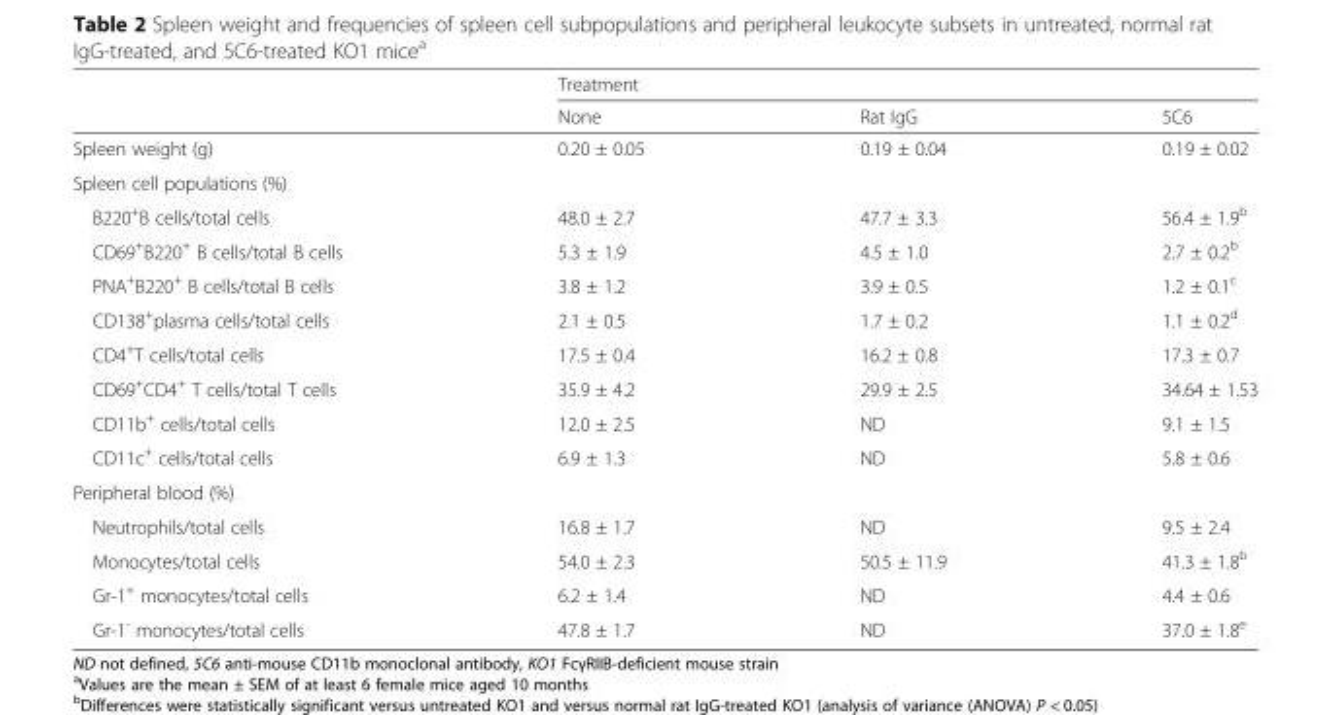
<table><thead><tr><td rowspan="2"></td><td colspan="3">Treatment</td></tr><tr><td>None</td><td>Rat IgG</td><td>5C6</td></tr></thead><tbody><tr><td>Spleen weight (g)</td><td>0.20 ± 0.05</td><td>0.19 ± 0.04</td><td>0.19 ± 0.02</td></tr><tr><td colspan="4">Spleen cell populations (%)</td></tr><tr><td>B220<sup>+</sup>B cells/total cells</td><td>48.0 ± 2.7</td><td>47.7 ± 3.3</td><td>56.4 ± 1.9<sup>b</sup></td></tr><tr><td>CD69<sup>+</sup>B220<sup>+</sup> B cells/total B cells</td><td>5.3 ± 1.9</td><td>4.5 ± 1.0</td><td>2.7 ± 0.2<sup>b</sup></td></tr><tr><td>PNA<sup>+</sup>B220<sup>+</sup> B cells/total B cells</td><td>3.8 ± 1.2</td><td>3.9 ± 0.5</td><td>1.2 ± 0.1<sup>c</sup></td></tr><tr><td>CD138<sup>+</sup>plasma cells/total cells</td><td>2.1 ± 0.5</td><td>1.7 ± 0.2</td><td>1.1 ± 0.2<sup>d</sup></td></tr><tr><td>CD4<sup>+</sup>T cells/total cells</td><td>17.5 ± 0.4</td><td>16.2 ± 0.8</td><td>17.3 ± 0.7</td></tr><tr><td>CD69<sup>+</sup>CD4<sup>+</sup> T cells/total T cells</td><td>35.9 ± 4.2</td><td>29.9 ± 2.5</td><td>34.64 ± 1.53</td></tr><tr><td>CD11b<sup>+</sup> cells/total cells</td><td>12.0 ± 2.5</td><td>ND</td><td>9.1 ± 1.5</td></tr><tr><td>CD11c<sup>+</sup> cells/total cells</td><td>6.9 ± 1.3</td><td>ND</td><td>5.8 ± 0.6</td></tr><tr><td colspan="4">Peripheral blood (%)</td></tr><tr><td>Neutrophils/total cells</td><td>16.8 ± 1.7</td><td>ND</td><td>9.5 ± 2.4</td></tr><tr><td>Monocytes/total cells</td><td>54.0 ± 2.3</td><td>50.5 ± 11.9</td><td>41.3 ± 1.8<sup>b</sup></td></tr><tr><td>Gr-1<sup>+</sup> monocytes/total cells</td><td>6.2 ± 1.4</td><td>ND</td><td>4.4 ± 0.6</td></tr><tr><td>Gr-1<sup>-</sup> monocytes/total cells</td><td>47.8 ± 1.7</td><td>ND</td><td>37.0 ± 1.8<sup>e</sup></td></tr></tbody></table>